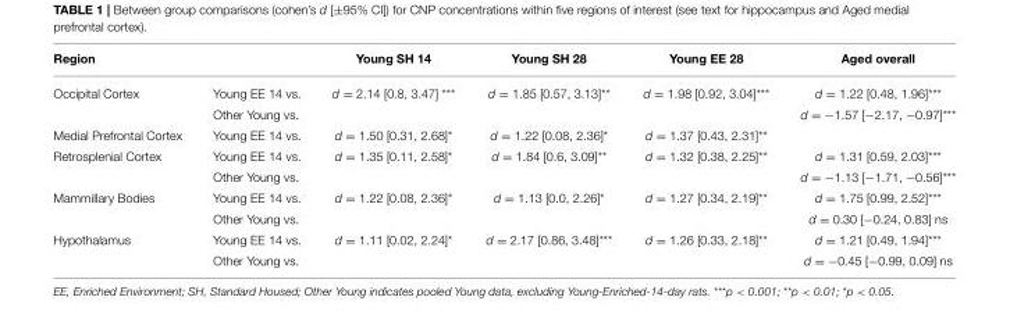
<table><thead><tr><td>Region</td><td></td><td>Young SH 14</td><td>Young SH 28</td><td>Young EE 28</td><td>Aged overall</td></tr></thead><tbody><tr><td rowspan="2">Occipital Cortex</td><td>Young EE 14 vs.</td><td>d = 2.14 [0.8, 3.47] ***</td><td>d = 1.85 [0.57, 3.13]**</td><td>d = 1.98 [0.92, 3.04]***</td><td>d = 1.22 [0.48, 1.96]***</td></tr><tr><td>Other Young vs.</td><td></td><td></td><td></td><td>d = −1.57 [−2.17, −0.97]***</td></tr><tr><td>Medial Prefrontal Cortex</td><td>Young EE 14 vs.</td><td>d = 1.50 [0.31, 2.68]*</td><td>d = 1.22 [0.08, 2.36]*</td><td>d = 1.37 [0.43, 2.31]**</td><td></td></tr><tr><td rowspan="2">Retrosplenial Cortex</td><td>Young EE 14 vs.</td><td>d = 1.35 [0.11, 2.58]*</td><td>d = 1.84 [0.6, 3.09]**</td><td>d = 1.32 [0.38, 2.25]**</td><td>d = 1.31 [0.59, 2.03]***</td></tr><tr><td>Other Young vs.</td><td></td><td></td><td></td><td>d = −1.13 [−1.71, −0.56]***</td></tr><tr><td rowspan="2">Mammillary Bodies</td><td>Young EE 14 vs.</td><td>d = 1.22 [0.08, 2.36]*</td><td>d = 1.13 [0.0, 2.26]*</td><td>d = 1.27 [0.34, 2.19]**</td><td>d = 1.75 [0.99, 2.52]***</td></tr><tr><td>Other Young vs.</td><td></td><td></td><td></td><td>d = 0.30 [−0.24, 0.83] ns</td></tr><tr><td rowspan="2">Hypothalamus</td><td>Young EE 14 vs.</td><td>d = 1.11 [0.02, 2.24]*</td><td>d = 2.17 [0.86, 3.48]***</td><td>d = 1.26 [0.33, 2.18]**</td><td>d = 1.21 [0.49, 1.94]***</td></tr><tr><td>Other Young vs.</td><td></td><td></td><td></td><td>d = −0.45 [−0.99, 0.09] ns</td></tr></tbody></table>